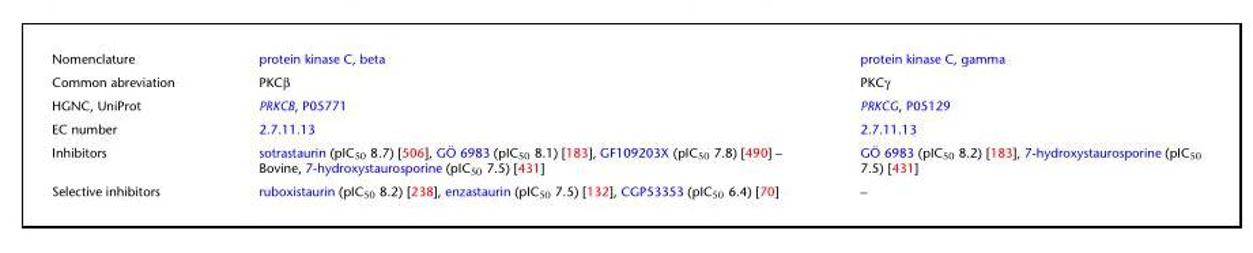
<table><tbody><tr><td>Nomenclature</td><td>protein kinase C, beta</td><td>protein kinase C, gamma</td></tr><tr><td>Common abreviation</td><td>PKCβ</td><td>PKCγ</td></tr><tr><td>HGNC, UniProt</td><td>PRKCB, P05771</td><td>PRKCG, P05129</td></tr><tr><td>EC number</td><td>2.7.11.13</td><td>2.7.11.13</td></tr><tr><td>Inhibitors</td><td>sotrastaurin (pIC<sub>50</sub> 8.7) [506], GÖ 6983 (pIC<sub>50</sub> 8.1) [183], GF109203X (pIC<sub>50</sub> 7.8) [490] – Bovine, 7-hydroxystaurosporine (pIC<sub>50</sub> 7.5) [431]</td><td>GÖ 6983 (pIC<sub>50</sub> 8.2) [183], 7-hydroxystaurosporine (pIC<sub>50</sub> 7.5) [431]</td></tr><tr><td>Selective inhibitors</td><td>ruboxistaurin (pIC<sub>50</sub> 8.2) [238], enzastaurin (pIC<sub>50</sub> 7.5) [132], CGP53353 (pIC<sub>50</sub> 6.4) [70]</td><td>–</td></tr></tbody></table>